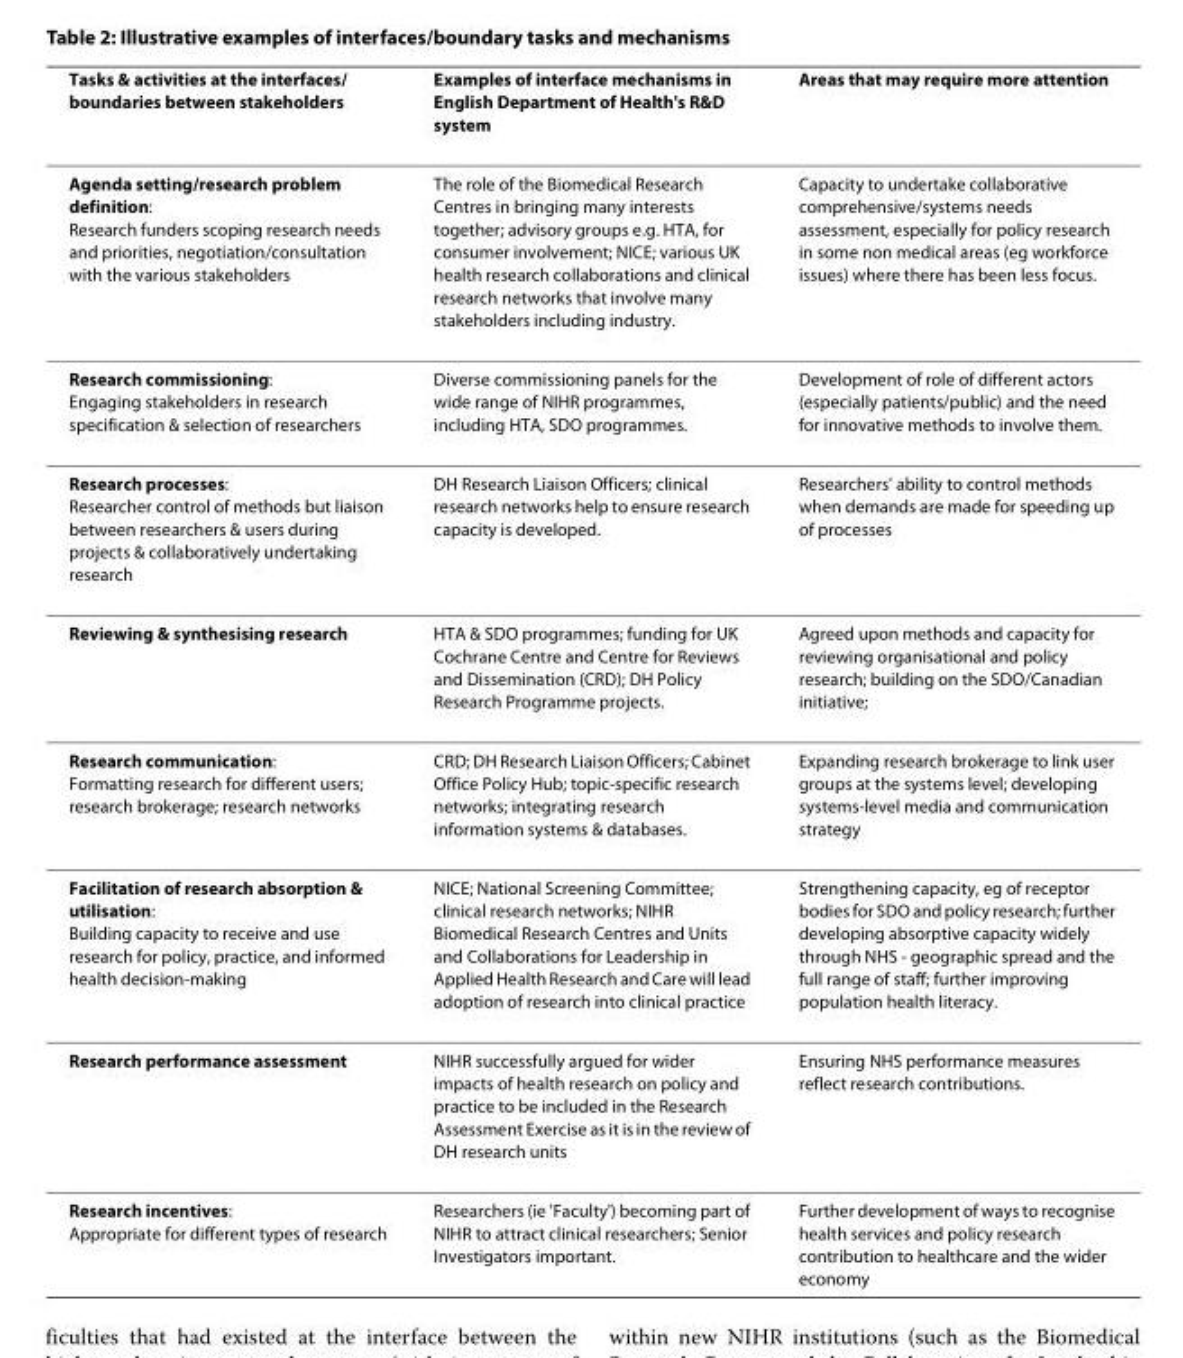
<table><thead><tr><td>Tasks &amp; activities at the interfaces/ boundaries between stakeholders</td><td>Examples of interface mechanisms in English Department of Health&#x27;s R&amp;D system</td><td>Areas that may require more attention</td></tr></thead><tbody><tr><td>Agenda setting/research problem definition: Research funders scoping research needs and priorities, negotiation/consultation with the various stakeholders</td><td>The role of the Biomedical Research Centres in bringing many interests together; advisory groups e.g. HTA, for consumer involvement; NICE; various UK health research collaborations and clinical research networks that involve many stakeholders including industry.</td><td>Capacity to undertake collaborative comprehensive/systems needs assessment, especially for policy research in some non medical areas (eg workforce issues) where there has been less focus.</td></tr><tr><td>Research commissioning: Engaging stakeholders in research specification &amp; selection of researchers</td><td>Diverse commissioning panels for the wide range of NIHR programmes, including HTA, SDO programmes.</td><td>Development of role of different actors (especially patients/public) and the need for innovative methods to involve them.</td></tr><tr><td>Research processes: Researcher control of methods but liaison between researchers &amp; users during projects &amp; collaboratively undertaking research</td><td>DH Research Liaison Officers; clinical research networks help to ensure research capacity is developed.</td><td>Researchers&#x27; ability to control methods when demands are made for speeding up of processes</td></tr><tr><td>Reviewing &amp; synthesising research</td><td>HTA &amp; SDO programmes; funding for UK Cochrane Centre and Centre for Reviews and Dissemination (CRD); DH Policy Research Programme projects.</td><td>Agreed upon methods and capacity for reviewing organisational and policy research; building on the SDO/Canadian initiative;</td></tr><tr><td>Research communication: Formatting research for different users; research brokerage; research networks</td><td>CRD; DH Research Liaison Officers; Cabinet Office Policy Hub; topic-specific research networks; integrating research information systems &amp; databases.</td><td>Expanding research brokerage to link user groups at the systems level; developing systems-level media and communication strategy</td></tr><tr><td>Facilitation of research absorption &amp; utilisation: Building capacity to receive and use research for policy, practice, and informed health decision-making</td><td>NICE; National Screening Committee; clinical research networks; NIHR Biomedical Research Centres and Units and Collaborations for Leadership in Applied Health Research and Care will lead adoption of research into clinical practice</td><td>Strengthening capacity, eg of receptor bodies for SDO and policy research; further developing absorptive capacity widely through NHS - geographic spread and the full range of staff; further improving population health literacy.</td></tr><tr><td>Research performance assessment</td><td>NIHR successfully argued for wider impacts of health research on policy and practice to be included in the Research Assessment Exercise as it is in the review of DH research units</td><td>Ensuring NHS performance measures reflect research contributions.</td></tr><tr><td>Research incentives: Appropriate for different types of research</td><td>Researchers (ie &#x27;Faculty&#x27;) becoming part of NIHR to attract clinical researchers; Senior Investigators important.</td><td>Further development of ways to recognise health services and policy research contribution to healthcare and the wider economy</td></tr></tbody></table>